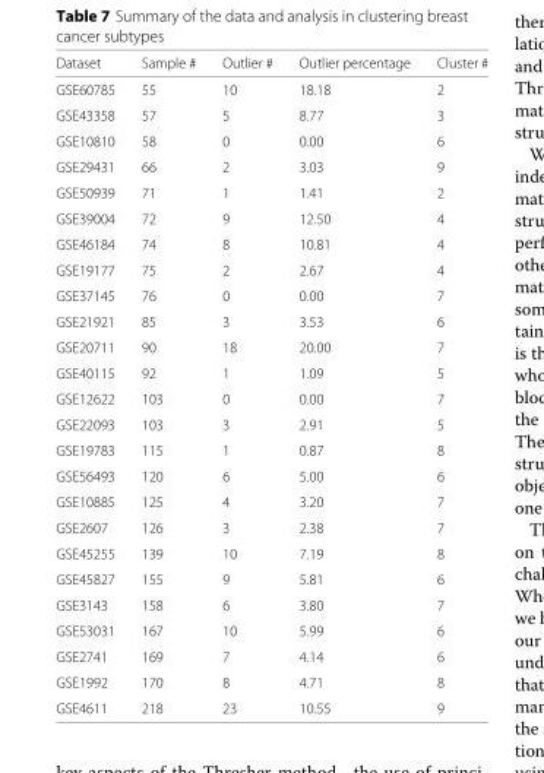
<table><thead><tr><td>Dataset</td><td>Sample #</td><td>Outlier #</td><td>Outlier percentage</td><td>Cluster #</td></tr></thead><tbody><tr><td>GSE60785</td><td>55</td><td>10</td><td>18.18</td><td>2</td></tr><tr><td>GSE43358</td><td>57</td><td>5</td><td>8.77</td><td>3</td></tr><tr><td>GSE10810</td><td>58</td><td>0</td><td>0.00</td><td>6</td></tr><tr><td>GSE29431</td><td>66</td><td>2</td><td>3.03</td><td>9</td></tr><tr><td>GSE50939</td><td>71</td><td>1</td><td>1.41</td><td>2</td></tr><tr><td>GSE39004</td><td>72</td><td>9</td><td>12.50</td><td>4</td></tr><tr><td>GSE46184</td><td>74</td><td>8</td><td>10.81</td><td>4</td></tr><tr><td>GSE19177</td><td>75</td><td>2</td><td>2.67</td><td>4</td></tr><tr><td>GSE37145</td><td>76</td><td>0</td><td>0.00</td><td>7</td></tr><tr><td>GSE21921</td><td>85</td><td>3</td><td>3.53</td><td>6</td></tr><tr><td>GSE20711</td><td>90</td><td>18</td><td>20.00</td><td>7</td></tr><tr><td>GSE40115</td><td>92</td><td>1</td><td>1.09</td><td>5</td></tr><tr><td>GSE12622</td><td>103</td><td>0</td><td>0.00</td><td>7</td></tr><tr><td>GSE22093</td><td>103</td><td>3</td><td>2.91</td><td>5</td></tr><tr><td>GSE19783</td><td>115</td><td>1</td><td>0.87</td><td>8</td></tr><tr><td>GSE56493</td><td>120</td><td>6</td><td>5.00</td><td>6</td></tr><tr><td>GSE10885</td><td>125</td><td>4</td><td>3.20</td><td>7</td></tr><tr><td>GSE2607</td><td>126</td><td>3</td><td>2.38</td><td>7</td></tr><tr><td>GSE45255</td><td>139</td><td>10</td><td>7.19</td><td>8</td></tr><tr><td>GSE45827</td><td>155</td><td>9</td><td>5.81</td><td>6</td></tr><tr><td>GSE3143</td><td>158</td><td>6</td><td>3.80</td><td>7</td></tr><tr><td>GSE53031</td><td>167</td><td>10</td><td>5.99</td><td>6</td></tr><tr><td>GSE2741</td><td>169</td><td>7</td><td>4.14</td><td>6</td></tr><tr><td>GSE1992</td><td>170</td><td>8</td><td>4.71</td><td>8</td></tr><tr><td>GSE4611</td><td>218</td><td>23</td><td>10.55</td><td>9</td></tr></tbody></table>